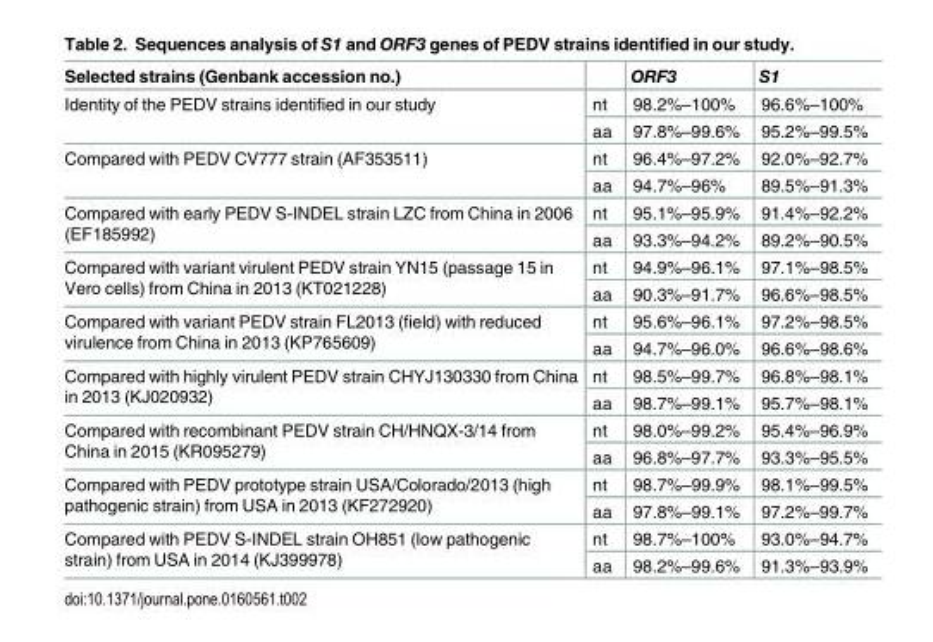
<table><thead><tr><td>Selected strains (Genbank accession no.)</td><td></td><td>ORF3</td><td>S1</td></tr></thead><tbody><tr><td rowspan="2">Identity of the PEDV strains identified in our study</td><td>nt</td><td>98.2%–100%</td><td>96.6%–100%</td></tr><tr><td>aa</td><td>97.8%–99.6%</td><td>95.2%–99.5%</td></tr><tr><td rowspan="2">Compared with PEDV CV777 strain (AF353511)</td><td>nt</td><td>96.4%–97.2%</td><td>92.0%–92.7%</td></tr><tr><td>aa</td><td>94.7%–96%</td><td>89.5%–91.3%</td></tr><tr><td rowspan="2">Compared with early PEDV S-INDEL strain LZC from China in 2006 (EF185992)</td><td>nt</td><td>95.1%–95.9%</td><td>91.4%–92.2%</td></tr><tr><td>aa</td><td>93.3%–94.2%</td><td>89.2%–90.5%</td></tr><tr><td rowspan="2">Compared with variant virulent PEDV strain YN15 (passage 15 in Vero cells) from China in 2013 (KT021228)</td><td>nt</td><td>94.9%–96.1%</td><td>97.1%–98.5%</td></tr><tr><td>aa</td><td>90.3%–91.7%</td><td>96.6%–98.5%</td></tr><tr><td rowspan="2">Compared with variant PEDV strain FL2013 (field) with reduced virulence from China in 2013 (KP765609)</td><td>nt</td><td>95.6%–96.1%</td><td>97.2%–98.5%</td></tr><tr><td>aa</td><td>94.7%–96.0%</td><td>96.6%–98.6%</td></tr><tr><td rowspan="2">Compared with highly virulent PEDV strain CHYJ130330 from China in 2013 (KJ020932)</td><td>nt</td><td>98.5%–99.7%</td><td>96.8%–98.1%</td></tr><tr><td>aa</td><td>98.7%–99.1%</td><td>95.7%–98.1%</td></tr><tr><td rowspan="2">Compared with recombinant PEDV strain CH/HNQX-3/14 from China in 2015 (KR095279)</td><td>nt</td><td>98.0%–99.2%</td><td>95.4%–96.9%</td></tr><tr><td>aa</td><td>96.8%–97.7%</td><td>93.3%–95.5%</td></tr><tr><td rowspan="2">Compared with PEDV prototype strain USA/Colorado/2013 (high pathogenic strain) from USA in 2013 (KF272920)</td><td>nt</td><td>98.7%–99.9%</td><td>98.1%–99.5%</td></tr><tr><td>aa</td><td>97.8%–99.1%</td><td>97.2%–99.7%</td></tr><tr><td rowspan="2">Compared with PEDV S-INDEL strain OH851 (low pathogenic strain) from USA in 2014 (KJ399978)</td><td>nt</td><td>98.7%–100%</td><td>93.0%–94.7%</td></tr><tr><td>aa</td><td>98.2%–99.6%</td><td>91.3%–93.9%</td></tr></tbody></table>